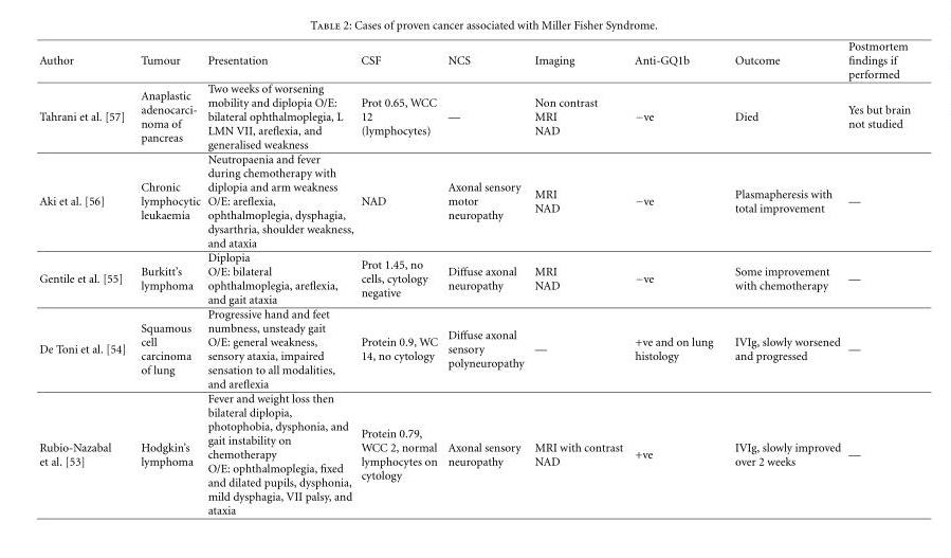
<table><thead><tr><td>Author</td><td>Tumour</td><td>Presentation</td><td>CSF</td><td>NCS</td><td>Imaging</td><td>Anti-GQ1b</td><td>Outcome</td><td>Postmortem findings if performed</td></tr></thead><tbody><tr><td>Tahrani et al. [57]</td><td>Anaplastic adenocarci- noma of pancreas</td><td>Two weeks of worsening mobility and diplopia O/E: bilateral ophthalmoplegia, L LMN VII, areflexia, and generalised weakness</td><td>Prot 0.65, WCC 12 (lymphocytes)</td><td>—</td><td>Non contrast MRI NAD</td><td>−ve</td><td>Died</td><td>Yes but brain not studied</td></tr><tr><td>Aki et al. [56]</td><td>Chronic lymphocytic leukaemia</td><td>Neutropaenia and fever during chemotherapy with diplopia and arm weakness O/E: areflexia, ophthalmoplegia, dysphagia, dysarthria, shoulder weakness, and ataxia</td><td>NAD</td><td>Axonal sensory motor neuropathy</td><td>MRI NAD</td><td>−ve</td><td>Plasmapheresis with total improvement</td><td>—</td></tr><tr><td>Gentile et al. [55]</td><td>Burkitt’s lymphoma</td><td>Diplopia O/E: bilateral ophthalmoplegia, areflexia, and gait ataxia</td><td>Prot 1.45, no cells, cytology negative</td><td>Diffuse axonal neuropathy</td><td>MRI NAD</td><td>−ve</td><td>Some improvement with chemotherapy</td><td>—</td></tr><tr><td>De Toni et al. [54]</td><td>Squamous cell carcinoma of lung</td><td>Progressive hand and feet numbness, unsteady gait O/E: general weakness, sensory ataxia, impaired sensation to all modalities, and areflexia</td><td>Protein 0.9, WC 14, no cytology</td><td>Diffuse axonal sensory polyneuropathy</td><td>—</td><td>+ve and on lung histology</td><td>IVIg, slowly worsened and progressed</td><td>—</td></tr><tr><td>Rubio-Nazabal et al. [53]</td><td>Hodgkin’s lymphoma</td><td>Fever and weight loss then bilateral diplopia, photophobia, dysphonia, and gait instability on chemotherapy O/E: ophthalmoplegia, fixed and dilated pupils, dysphonia, mild dysphagia, VII palsy, and ataxia</td><td>Protein 0.79, WCC 2, normal lymphocytes on cytology</td><td>Axonal sensory neuropathy</td><td>MRI with contrast NAD</td><td>+ve</td><td>IVIg, slowly improved over 2 weeks</td><td>—</td></tr></tbody></table>